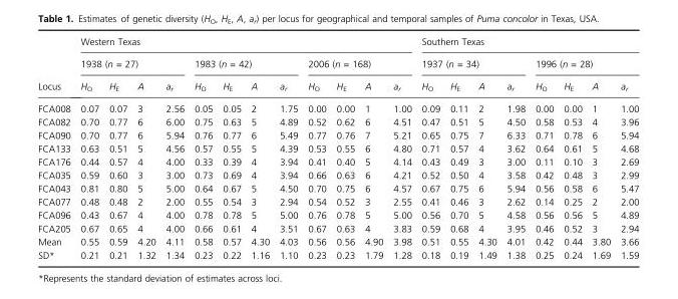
<table><thead><tr><td rowspan="3">Locus</td><td colspan="12">Western Texas</td><td colspan="8">Southern Texas</td></tr><tr><td colspan="4">1938 (n = 27)</td><td colspan="4">1983 (n = 42)</td><td colspan="4">2006 (n = 168)</td><td colspan="4">1937 (n = 34)</td><td colspan="4">1996 (n = 28)</td></tr><tr><td>H<sub>O</sub></td><td>H<sub>E</sub></td><td>A</td><td>a<sub>r</sub></td><td>H<sub>O</sub></td><td>H<sub>E</sub></td><td>A</td><td>a<sub>r</sub></td><td>H<sub>O</sub></td><td>H<sub>E</sub></td><td>A</td><td>a<sub>r</sub></td><td>H<sub>O</sub></td><td>H<sub>E</sub></td><td>A</td><td>a<sub>r</sub></td><td>H<sub>O</sub></td><td>H<sub>E</sub></td><td>A</td><td>a<sub>r</sub></td></tr></thead><tbody><tr><td>FCA008</td><td>0.07</td><td>0.07</td><td>3</td><td>2.56</td><td>0.05</td><td>0.05</td><td>2</td><td>1.75</td><td>0.00</td><td>0.00</td><td>1</td><td>1.00</td><td>0.09</td><td>0.11</td><td>2</td><td>1.98</td><td>0.00</td><td>0.00</td><td>1</td><td>1.00</td></tr><tr><td>FCA082</td><td>0.70</td><td>0.77</td><td>6</td><td>6.00</td><td>0.75</td><td>0.63</td><td>5</td><td>4.89</td><td>0.52</td><td>0.62</td><td>6</td><td>4.51</td><td>0.47</td><td>0.51</td><td>5</td><td>4.50</td><td>0.58</td><td>0.53</td><td>4</td><td>3.96</td></tr><tr><td>FCA090</td><td>0.70</td><td>0.77</td><td>6</td><td>5.94</td><td>0.76</td><td>0.77</td><td>6</td><td>5.49</td><td>0.77</td><td>0.76</td><td>7</td><td>5.21</td><td>0.65</td><td>0.75</td><td>7</td><td>6.33</td><td>0.71</td><td>0.78</td><td>6</td><td>5.94</td></tr><tr><td>FCA133</td><td>0.63</td><td>0.51</td><td>5</td><td>4.56</td><td>0.57</td><td>0.55</td><td>5</td><td>4.39</td><td>0.53</td><td>0.55</td><td>6</td><td>4.80</td><td>0.71</td><td>0.57</td><td>4</td><td>3.62</td><td>0.64</td><td>0.61</td><td>5</td><td>4.68</td></tr><tr><td>FCA176</td><td>0.44</td><td>0.57</td><td>4</td><td>4.00</td><td>0.33</td><td>0.39</td><td>4</td><td>3.94</td><td>0.41</td><td>0.40</td><td>5</td><td>4.14</td><td>0.43</td><td>0.49</td><td>3</td><td>3.00</td><td>0.11</td><td>0.10</td><td>3</td><td>2.69</td></tr><tr><td>FCA035</td><td>0.59</td><td>0.60</td><td>3</td><td>3.00</td><td>0.73</td><td>0.69</td><td>4</td><td>3.94</td><td>0.66</td><td>0.63</td><td>6</td><td>4.21</td><td>0.52</td><td>0.50</td><td>4</td><td>3.58</td><td>0.42</td><td>0.48</td><td>3</td><td>2.99</td></tr><tr><td>FCA043</td><td>0.81</td><td>0.80</td><td>5</td><td>5.00</td><td>0.64</td><td>0.67</td><td>5</td><td>4.50</td><td>0.70</td><td>0.75</td><td>6</td><td>4.57</td><td>0.67</td><td>0.75</td><td>6</td><td>5.94</td><td>0.56</td><td>0.58</td><td>6</td><td>5.47</td></tr><tr><td>FCA077</td><td>0.48</td><td>0.48</td><td>2</td><td>2.00</td><td>0.55</td><td>0.54</td><td>3</td><td>2.94</td><td>0.54</td><td>0.52</td><td>3</td><td>2.55</td><td>0.41</td><td>0.46</td><td>3</td><td>2.62</td><td>0.14</td><td>0.25</td><td>2</td><td>2.00</td></tr><tr><td>FCA096</td><td>0.43</td><td>0.67</td><td>4</td><td>4.00</td><td>0.78</td><td>0.78</td><td>5</td><td>5.00</td><td>0.76</td><td>0.78</td><td>5</td><td>5.00</td><td>0.56</td><td>0.70</td><td>5</td><td>4.58</td><td>0.56</td><td>0.56</td><td>5</td><td>4.89</td></tr><tr><td>FCA205</td><td>0.67</td><td>0.65</td><td>4</td><td>4.00</td><td>0.66</td><td>0.61</td><td>4</td><td>3.51</td><td>0.67</td><td>0.63</td><td>4</td><td>3.83</td><td>0.59</td><td>0.68</td><td>4</td><td>3.95</td><td>0.46</td><td>0.52</td><td>3</td><td>2.94</td></tr><tr><td>Mean</td><td>0.55</td><td>0.59</td><td>4.20</td><td>4.11</td><td>0.58</td><td>0.57</td><td>4.30</td><td>4.03</td><td>0.56</td><td>0.56</td><td>4.90</td><td>3.98</td><td>0.51</td><td>0.55</td><td>4.30</td><td>4.01</td><td>0.42</td><td>0.44</td><td>3.80</td><td>3.66</td></tr><tr><td>SD*</td><td>0.21</td><td>0.21</td><td>1.32</td><td>1.34</td><td>0.23</td><td>0.22</td><td>1.16</td><td>1.10</td><td>0.23</td><td>0.23</td><td>1.79</td><td>1.28</td><td>0.18</td><td>0.19</td><td>1.49</td><td>1.38</td><td>0.25</td><td>0.24</td><td>1.69</td><td>1.59</td></tr></tbody></table>